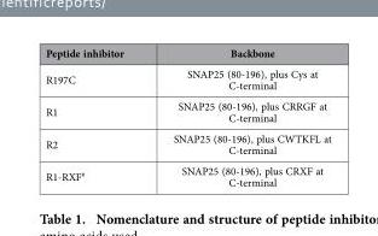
<table><thead><tr><td>Peptide inhibitor</td><td>Backbone</td></tr></thead><tbody><tr><td>R197C</td><td>SNAP25 (80-196), plus Cys at C-terminal</td></tr><tr><td>R1</td><td>SNAP25 (80-196), plus CRRGF at C-terminal</td></tr><tr><td>R2</td><td>SNAP25 (80-196), plus CWTKFL at C-terminal</td></tr><tr><td>R1-RXF#</td><td>SNAP25 (80-196), plus CRXF at C-terminal</td></tr></tbody></table>